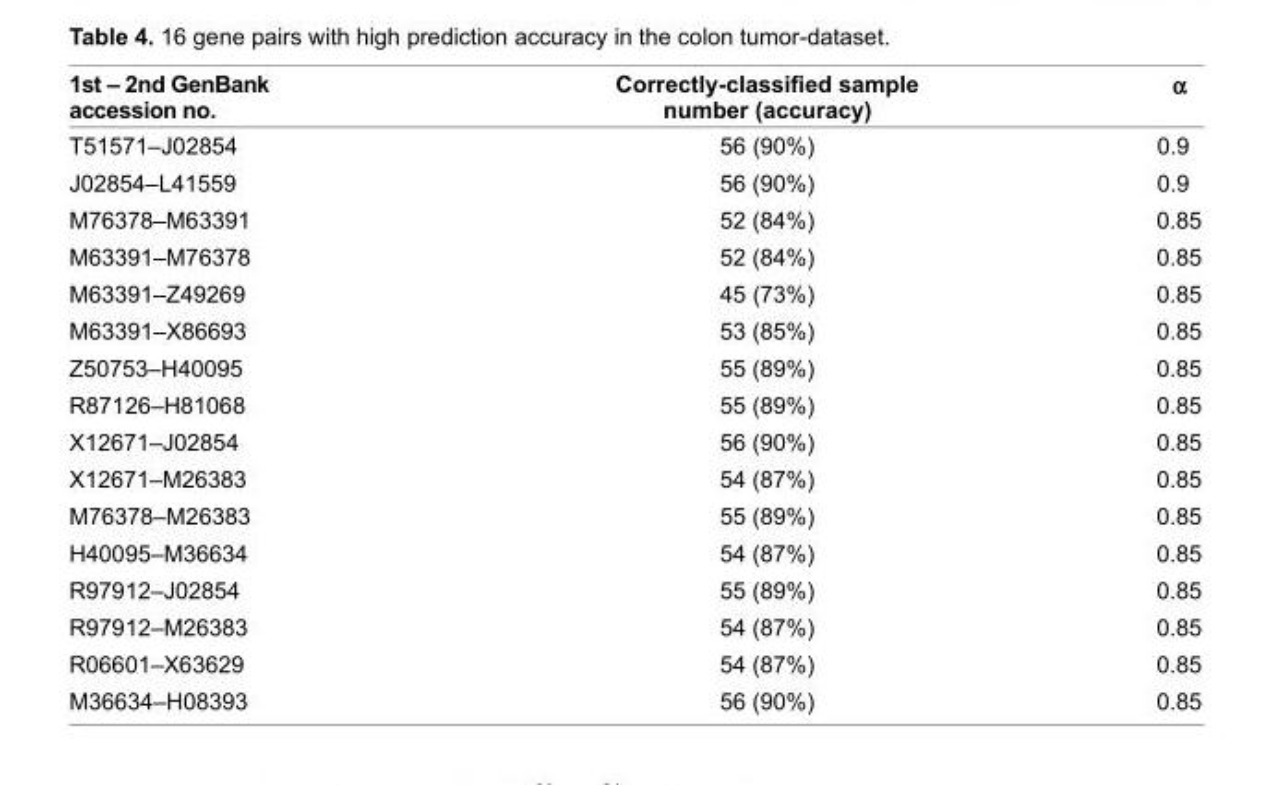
<table><thead><tr><td>1st – 2nd GenBank accession no.</td><td>Correctly-classifi ed sample number (accuracy)</td><td>α</td></tr></thead><tbody><tr><td>T51571–J02854</td><td>56 (90%)</td><td>0.9</td></tr><tr><td>J02854–L41559</td><td>56 (90%)</td><td>0.9</td></tr><tr><td>M76378–M63391</td><td>52 (84%)</td><td>0.85</td></tr><tr><td>M63391–M76378</td><td>52 (84%)</td><td>0.85</td></tr><tr><td>M63391–Z49269</td><td>45 (73%)</td><td>0.85</td></tr><tr><td>M63391–X86693</td><td>53 (85%)</td><td>0.85</td></tr><tr><td>Z50753–H40095</td><td>55 (89%)</td><td>0.85</td></tr><tr><td>R87126–H81068</td><td>55 (89%)</td><td>0.85</td></tr><tr><td>X12671–J02854</td><td>56 (90%)</td><td>0.85</td></tr><tr><td>X12671–M26383</td><td>54 (87%)</td><td>0.85</td></tr><tr><td>M76378–M26383</td><td>55 (89%)</td><td>0.85</td></tr><tr><td>H40095–M36634</td><td>54 (87%)</td><td>0.85</td></tr><tr><td>R97912–J02854</td><td>55 (89%)</td><td>0.85</td></tr><tr><td>R97912–M26383</td><td>54 (87%)</td><td>0.85</td></tr><tr><td>R06601–X63629</td><td>54 (87%)</td><td>0.85</td></tr><tr><td>M36634–H08393</td><td>56 (90%)</td><td>0.85</td></tr></tbody></table>